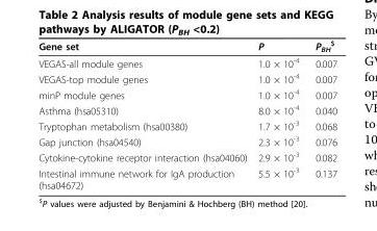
<table><thead><tr><td>Gene set</td><td>P</td><td>P<sub>BH</sub> <sup>$</sup></td></tr></thead><tbody><tr><td>VEGAS-all module genes</td><td>1.0 × 10<sup>-4</sup></td><td>0.007</td></tr><tr><td>VEGAS-top module genes</td><td>1.0 × 10<sup>-4</sup></td><td>0.007</td></tr><tr><td>minP module genes</td><td>1.0 × 10<sup>-4</sup></td><td>0.007</td></tr><tr><td>Asthma (hsa05310)</td><td>8.0 × 10<sup>-4</sup></td><td>0.040</td></tr><tr><td>Tryptophan metabolism (hsa00380)</td><td>1.7 × 10<sup>-3</sup></td><td>0.068</td></tr><tr><td>Gap junction (hsa04540)</td><td>2.3 × 10<sup>-3</sup></td><td>0.076</td></tr><tr><td>Cytokine-cytokine receptor interaction (hsa04060)</td><td>2.9 × 10<sup>-3</sup></td><td>0.082</td></tr><tr><td>Intestinal immune network for IgA production (hsa04672)</td><td>5.5 × 10<sup>-3</sup></td><td>0.137</td></tr></tbody></table>